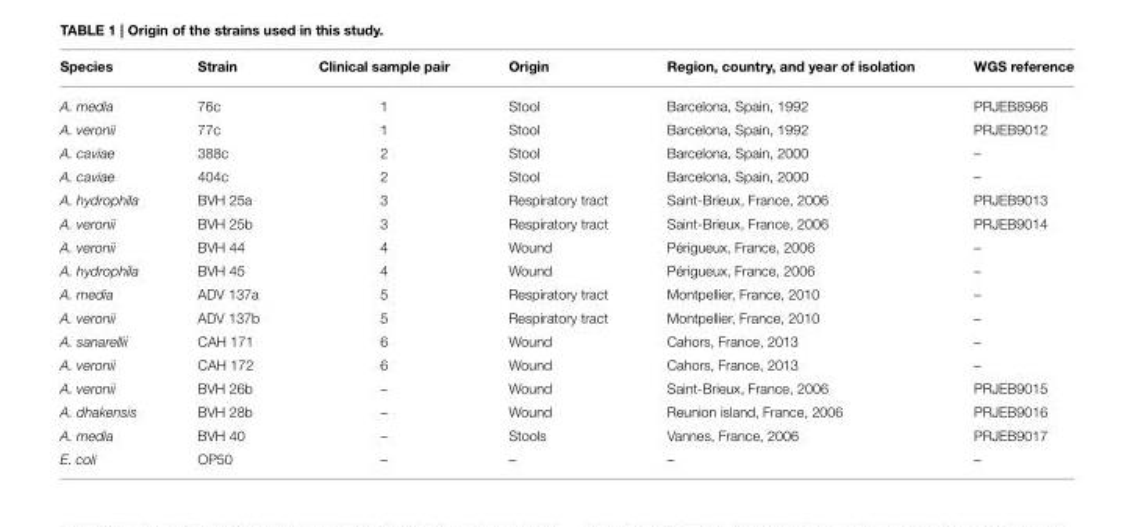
<table><thead><tr><td>Species</td><td>Strain</td><td>Clinical sample pair</td><td>Origin</td><td>Region, country, and year of isolation</td><td>WGS reference</td></tr></thead><tbody><tr><td>A. media</td><td>76c</td><td>1</td><td>Stool</td><td>Barcelona, Spain, 1992</td><td>PRJEB8966</td></tr><tr><td>A. veronii</td><td>77c</td><td>1</td><td>Stool</td><td>Barcelona, Spain, 1992</td><td>PRJEB9012</td></tr><tr><td>A. caviae</td><td>388c</td><td>2</td><td>Stool</td><td>Barcelona, Spain, 2000</td><td>–</td></tr><tr><td>A. caviae</td><td>404c</td><td>2</td><td>Stool</td><td>Barcelona, Spain, 2000</td><td>–</td></tr><tr><td>A. hydrophila</td><td>BVH 25a</td><td>3</td><td>Respiratory tract</td><td>Saint-Brieux, France, 2006</td><td>PRJEB9013</td></tr><tr><td>A. veronii</td><td>BVH 25b</td><td>3</td><td>Respiratory tract</td><td>Saint-Brieux, France, 2006</td><td>PRJEB9014</td></tr><tr><td>A. veronii</td><td>BVH 44</td><td>4</td><td>Wound</td><td>Périgueux, France, 2006</td><td>–</td></tr><tr><td>A. hydrophila</td><td>BVH 45</td><td>4</td><td>Wound</td><td>Périgueux, France, 2006</td><td>–</td></tr><tr><td>A. media</td><td>ADV 137a</td><td>5</td><td>Respiratory tract</td><td>Montpellier, France, 2010</td><td>–</td></tr><tr><td>A. veronii</td><td>ADV 137b</td><td>5</td><td>Respiratory tract</td><td>Montpellier, France, 2010</td><td>–</td></tr><tr><td>A. sanarellii</td><td>CAH 171</td><td>6</td><td>Wound</td><td>Cahors, France, 2013</td><td>–</td></tr><tr><td>A. veronii</td><td>CAH 172</td><td>6</td><td>Wound</td><td>Cahors, France, 2013</td><td>–</td></tr><tr><td>A. veronii</td><td>BVH 26b</td><td>–</td><td>Wound</td><td>Saint-Brieux, France, 2006</td><td>PRJEB9015</td></tr><tr><td>A. dhakensis</td><td>BVH 28b</td><td>–</td><td>Wound</td><td>Reunion island, France, 2006</td><td>PRJEB9016</td></tr><tr><td>A. media</td><td>BVH 40</td><td>–</td><td>Stools</td><td>Vannes, France, 2006</td><td>PRJEB9017</td></tr><tr><td>E. coli</td><td>OP50</td><td>–</td><td>–</td><td>–</td><td>–</td></tr></tbody></table>